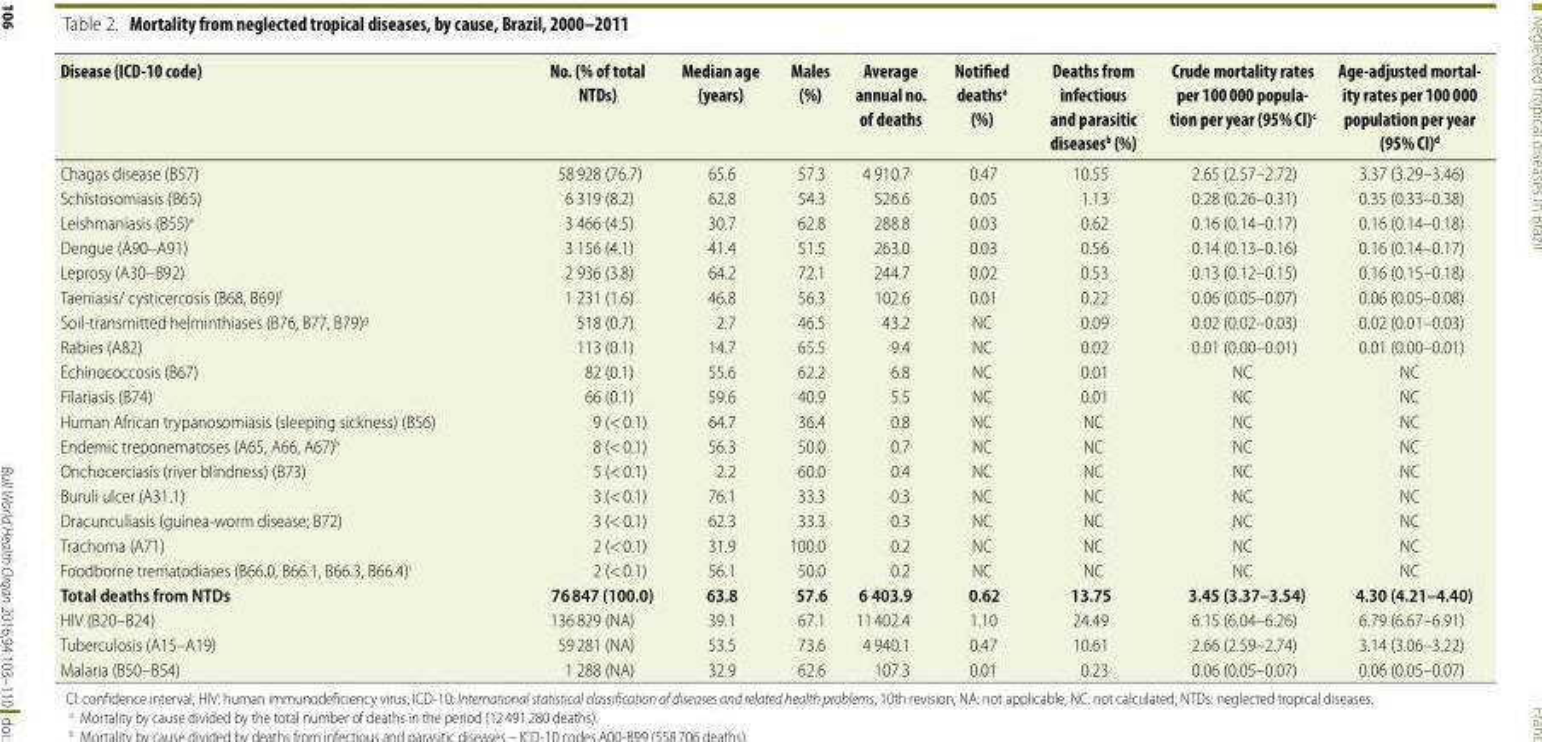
<table><thead><tr><td>Disease (ICD-10 code)</td><td>No. (% of total NTDs)</td><td>Median age (years)</td><td>Males (%)</td><td>Average annual no. of deaths</td><td>Notified deaths<sup>a</sup> (%)</td><td>Deaths from infectious and parasitic diseases<sup>b</sup> (%)</td><td>Crude mortality rates per 100 000 popula- tion per year (95% CI)c</td><td>Age-adjusted mortal- ity rates per 100 000 population per year (95% CI)d</td></tr></thead><tbody><tr><td>Chagas disease (B57)</td><td>58 928 (76.7)</td><td>65.6</td><td>57.3</td><td>4 910.7</td><td>0.47</td><td>10.55</td><td>2.65 (2.57–2.72)</td><td>3.37 (3.29–3.46)</td></tr><tr><td>Schistosomiasis (B65)</td><td>6 319 (8.2)</td><td>62.8</td><td>54.3</td><td>526.6</td><td>0.05</td><td>1.13</td><td>0.28 (0.26–0.31)</td><td>0.35 (0.33–0.38)</td></tr><tr><td>Leishmaniasis (B55)<sup>e</sup></td><td>3 466 (4.5)</td><td>30.7</td><td>62.8</td><td>288.8</td><td>0.03</td><td>0.62</td><td>0.16 (0.14–0.17)</td><td>0.16 (0.14–0.18)</td></tr><tr><td>Dengue (A90–A91)</td><td>3 156 (4.1)</td><td>41.4</td><td>51.5</td><td>263.0</td><td>0.03</td><td>0.56</td><td>0.14 (0.13–0.16)</td><td>0.16 (0.14–0.17)</td></tr><tr><td>Leprosy (A30–B92)</td><td>2 936 (3.8)</td><td>64.2</td><td>72.1</td><td>244.7</td><td>0.02</td><td>0.53</td><td>0.13 (0.12–0.15)</td><td>0.16 (0.15–0.18)</td></tr><tr><td>Taeniasis/ cysticercosis (B68, B69)<sup>f</sup></td><td>1 231 (1.6)</td><td>46.8</td><td>56.3</td><td>102.6</td><td>0.01</td><td>0.22</td><td>0.06 (0.05–0.07)</td><td>0.06 (0.05–0.08)</td></tr><tr><td>Soil-transmitted helminthiases (B76, B77, B79)<sup>g</sup></td><td>518 (0.7)</td><td>2.7</td><td>46.5</td><td>43.2</td><td>NC</td><td>0.09</td><td>0.02 (0.02–0.03)</td><td>0.02 (0.01–0.03)</td></tr><tr><td>Rabies (A82)</td><td>113 (0.1)</td><td>14.7</td><td>65.5</td><td>9.4</td><td>NC</td><td>0.02</td><td>0.01 (0.00–0.01)</td><td>0.01 (0.00–0.01)</td></tr><tr><td>Echinococcosis (B67)</td><td>82 (0.1)</td><td>55.6</td><td>62.2</td><td>6.8</td><td>NC</td><td>0.01</td><td>NC</td><td>NC</td></tr><tr><td>Filariasis (B74)</td><td>66 (0.1)</td><td>59.6</td><td>40.9</td><td>5.5</td><td>NC</td><td>0.01</td><td>NC</td><td>NC</td></tr><tr><td>Human African trypanosomiasis (sleeping sickness) (B56)</td><td>9 (&lt; 0.1)</td><td>64.7</td><td>36.4</td><td>0.8</td><td>NC</td><td>NC</td><td>NC</td><td>NC</td></tr><tr><td>Endemic treponematoses (A65, A66, A67)<sup>h</sup></td><td>8 (&lt; 0.1)</td><td>56.3</td><td>50.0</td><td>0.7</td><td>NC</td><td>NC</td><td>NC</td><td>NC</td></tr><tr><td>Onchocerciasis (river blindness) (B73)</td><td>5 (&lt; 0.1)</td><td>2.2</td><td>60.0</td><td>0.4</td><td>NC</td><td>NC</td><td>NC</td><td>NC</td></tr><tr><td>Buruli ulcer (A31.1)</td><td>3 (&lt; 0.1)</td><td>76.1</td><td>33.3</td><td>0.3</td><td>NC</td><td>NC</td><td>NC</td><td>NC</td></tr><tr><td>Dracunculiasis (guinea-worm disease; B72)</td><td>3 (&lt; 0.1)</td><td>62.3</td><td>33.3</td><td>0.3</td><td>NC</td><td>NC</td><td>NC</td><td>NC</td></tr><tr><td>Trachoma (A71)</td><td>2 (&lt; 0.1)</td><td>31.9</td><td>100.0</td><td>0.2</td><td>NC</td><td>NC</td><td>NC</td><td>NC</td></tr><tr><td>Foodborne trematodiases (B66.0, B66.1, B66.3, B66.4)<sup>i</sup></td><td>2 (&lt; 0.1)</td><td>56.1</td><td>50.0</td><td>0.2</td><td>NC</td><td>NC</td><td>NC</td><td>NC</td></tr><tr><td>Total deaths from NTDs</td><td>76 847 (100.0)</td><td>63.8</td><td>57.6</td><td>6 403.9</td><td>0.62</td><td>13.75</td><td>3.45 (3.37–3.54)</td><td>4.30 (4.21–4.40)</td></tr><tr><td>HIV (B20–B24)</td><td>136 829 (NA)</td><td>39.1</td><td>67.1</td><td>11 402.4</td><td>1.10</td><td>24.49</td><td>6.15 (6.04–6.26)</td><td>6.79 (6.67–6.91)</td></tr><tr><td>Tuberculosis (A15–A19)</td><td>59 281 (NA)</td><td>53.5</td><td>73.6</td><td>4 940.1</td><td>0.47</td><td>10.61</td><td>2.66 (2.59–2.74)</td><td>3.14 (3.06–3.22)</td></tr><tr><td>Malaria (B50–B54)</td><td>1 288 (NA)</td><td>32.9</td><td>62.6</td><td>107.3</td><td>0.01</td><td>0.23</td><td>0.06 (0.05–0.07)</td><td>0.06 (0.05–0.07)</td></tr></tbody></table>